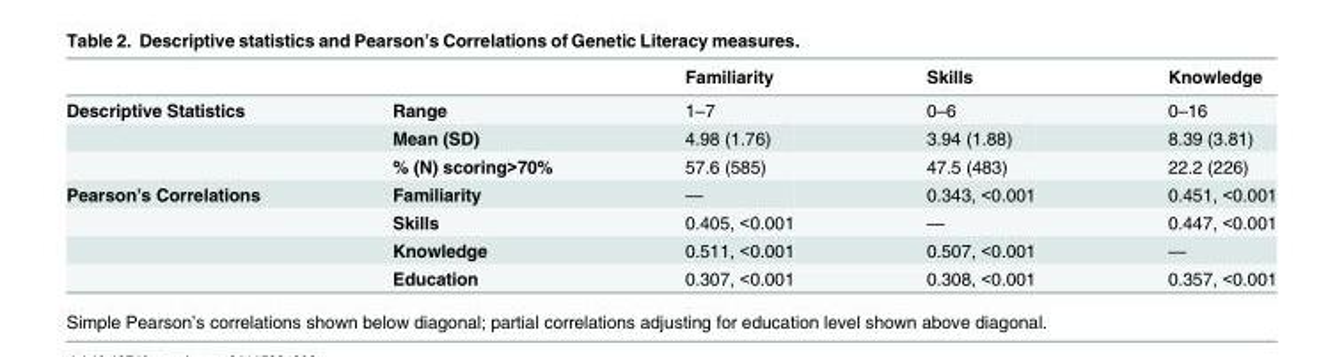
<table><thead><tr><td></td><td></td><td>Familiarity</td><td>Skills</td><td>Knowledge</td></tr></thead><tbody><tr><td rowspan="3">Descriptive Statistics</td><td>Range</td><td>1–7</td><td>0–6</td><td>0–16</td></tr><tr><td>Mean (SD)</td><td>4.98 (1.76)</td><td>3.94 (1.88)</td><td>8.39 (3.81)</td></tr><tr><td>% (N) scoring&gt;70%</td><td>57.6 (585)</td><td>47.5 (483)</td><td>22.2 (226)</td></tr><tr><td rowspan="4">Pearson’s Correlations</td><td>Familiarity</td><td>—</td><td>0.343, &lt;0.001</td><td>0.451, &lt;0.001</td></tr><tr><td>Skills</td><td>0.405, &lt;0.001</td><td>—</td><td>0.447, &lt;0.001</td></tr><tr><td>Knowledge</td><td>0.511, &lt;0.001</td><td>0.507, &lt;0.001</td><td>—</td></tr><tr><td>Education</td><td>0.307, &lt;0.001</td><td>0.308, &lt;0.001</td><td>0.357, &lt;0.001</td></tr></tbody></table>